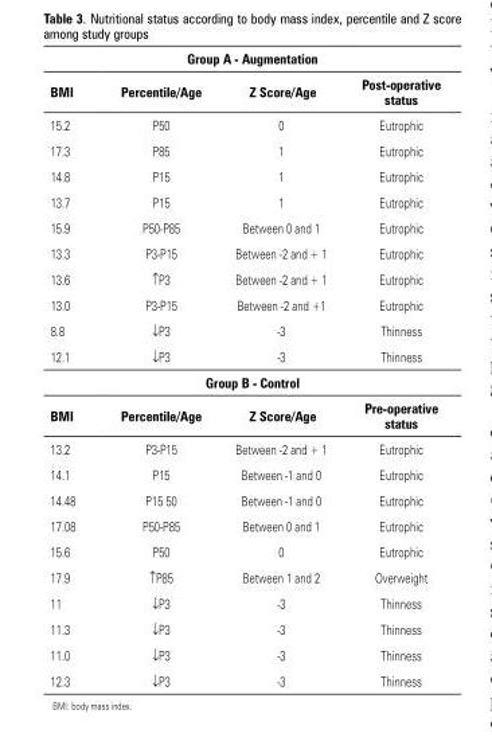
<table><thead><tr><td colspan="4">Group A - Augmentation</td></tr><tr><td>BMI</td><td>Percentile/Age</td><td>Z Score/Age</td><td>Post-operative status</td></tr></thead><tbody><tr><td>15.2</td><td>P50</td><td>0</td><td>Eutrophic</td></tr><tr><td>17.3</td><td>P85</td><td>1</td><td>Eutrophic</td></tr><tr><td>14.8</td><td>P15</td><td>1</td><td>Eutrophic</td></tr><tr><td>13.7</td><td>P15</td><td>1</td><td>Eutrophic</td></tr><tr><td>15.9</td><td>P50-P85</td><td>Between 0 and 1</td><td>Eutrophic</td></tr><tr><td>13.3</td><td>P3-P15</td><td>Between -2 and + 1</td><td>Eutrophic</td></tr><tr><td>13.6</td><td>↑P3</td><td>Between -2 and + 1</td><td>Eutrophic</td></tr><tr><td>13.0</td><td>P3-P15</td><td>Between -2 and +1</td><td>Eutrophic</td></tr><tr><td>8.8</td><td>↓P3</td><td>-3</td><td>Thinness</td></tr><tr><td>12.1</td><td>↓P3</td><td>-3</td><td>Thinness</td></tr><tr><td colspan="4">Group B - Control</td></tr><tr><td>BMI</td><td>Percentile/Age</td><td>Z Score/Age</td><td>Pre-operative status</td></tr><tr><td>13.2</td><td>P3-P15</td><td>Between -2 and + 1</td><td>Eutrophic</td></tr><tr><td>14.1</td><td>P15</td><td>Between -1 and 0</td><td>Eutrophic</td></tr><tr><td>14.48</td><td>P15 50</td><td>Between -1 and 0</td><td>Eutrophic</td></tr><tr><td>17.08</td><td>P50-P85</td><td>Between 0 and 1</td><td>Eutrophic</td></tr><tr><td>15.6</td><td>P50</td><td>0</td><td>Eutrophic</td></tr><tr><td>17.9</td><td>↑P85</td><td>Between 1 and 2</td><td>Overweight</td></tr><tr><td>11</td><td>↓P3</td><td>-3</td><td>Thinness</td></tr><tr><td>11.3</td><td>↓P3</td><td>-3</td><td>Thinness</td></tr><tr><td>11.0</td><td>↓P3</td><td>-3</td><td>Thinness</td></tr><tr><td>12.3</td><td>↓P3</td><td>-3</td><td>Thinness</td></tr></tbody></table>